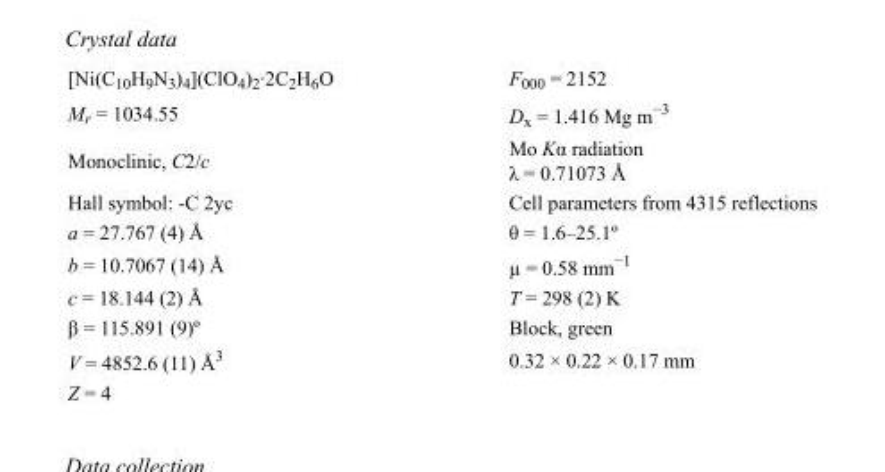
<table><tbody><tr><td>[Ni(C<sub>10</sub>H<sub>9</sub>N<sub>3</sub>)<sub>4</sub>](ClO<sub>4</sub>)<sub>2</sub>·2C<sub>2</sub>H<sub>6</sub>O</td><td>F<sub>000</sub> = 2152</td></tr><tr><td>M<sub>r</sub> = 1034.55</td><td>D<sub>x</sub> = 1.416 Mg m<sup>−3</sup></td></tr><tr><td>Monoclinic, C2/c</td><td>Mo Kα radiation λ = 0.71073 Å</td></tr><tr><td>Hall symbol: -C 2yc</td><td>Cell parameters from 4315 reflections</td></tr><tr><td>a = 27.767 (4) Å</td><td>θ = 1.6–25.1º</td></tr><tr><td>b = 10.7067 (14) Å</td><td>µ = 0.58 mm<sup>−1</sup></td></tr><tr><td>c = 18.144 (2) Å</td><td>T = 298 (2) K</td></tr><tr><td>β = 115.891 (9)º</td><td>Block, green</td></tr><tr><td>V = 4852.6 (11) Å<sup>3</sup></td><td>0.32 × 0.22 × 0.17 mm</td></tr><tr><td>Z = 4</td><td></td></tr></tbody></table>